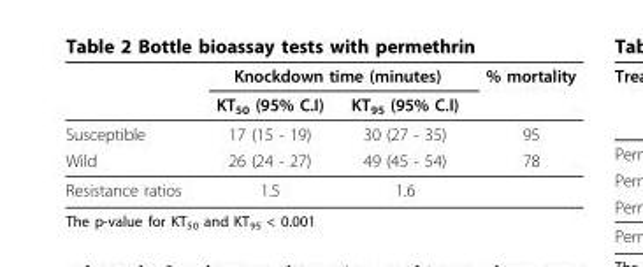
<table><thead><tr><td rowspan="2"></td><td colspan="2">Knockdown time (minutes)</td><td rowspan="2">% mortality</td></tr><tr><td>KT<sub>50</sub> (95% C.I)</td><td>KT<sub>95</sub> (95% C.I)</td></tr></thead><tbody><tr><td>Susceptible</td><td>17 (15 - 19)</td><td>30 (27 - 35)</td><td>95</td></tr><tr><td>Wild</td><td>26 (24 - 27)</td><td>49 (45 - 54)</td><td>78</td></tr><tr><td>Resistance ratios</td><td>1.5</td><td>1.6</td><td></td></tr></tbody></table>